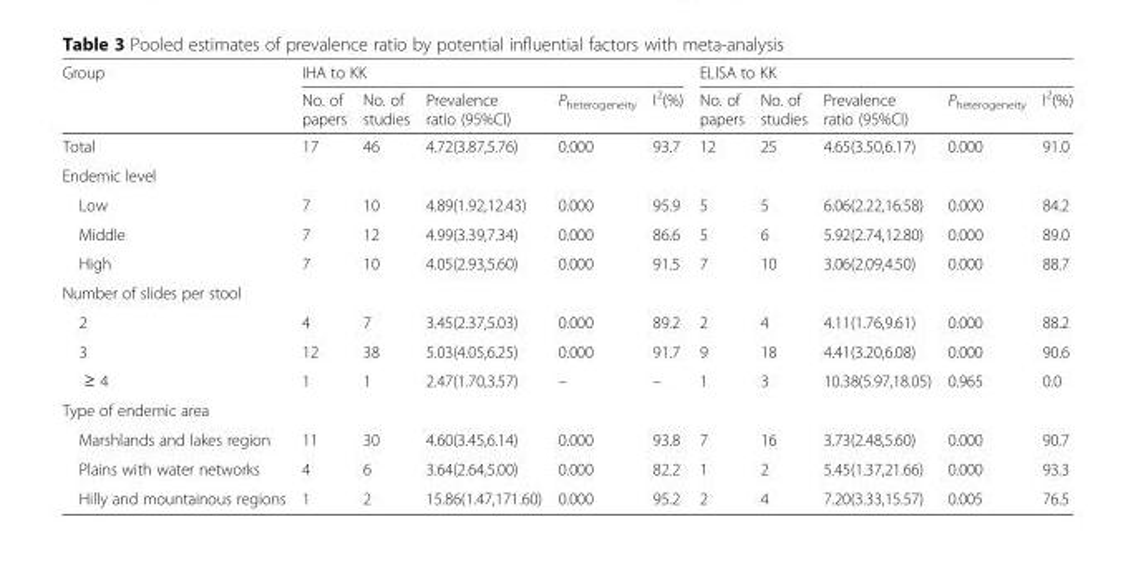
<table><thead><tr><td rowspan="2">Group</td><td colspan="5">IHA to KK</td><td colspan="5">ELISA to KK</td></tr><tr><td>No. of papers</td><td>No. of studies</td><td>Prevalence ratio (95%CI)</td><td>P<sub>heterogeneity</sub></td><td>I<sup>2</sup>(%)</td><td>No. of papers</td><td>No. of studies</td><td>Prevalence ratio (95%CI)</td><td>P<sub>heterogeneity</sub></td><td>I<sup>2</sup>(%)</td></tr></thead><tbody><tr><td>Total</td><td>17</td><td>46</td><td>4.72(3.87,5.76)</td><td>0.000</td><td>93.7</td><td>12</td><td>25</td><td>4.65(3.50,6.17)</td><td>0.000</td><td>91.0</td></tr><tr><td colspan="11">Endemic level</td></tr><tr><td>Low</td><td>7</td><td>10</td><td>4.89(1.92,12.43)</td><td>0.000</td><td>95.9</td><td>5</td><td>5</td><td>6.06(2.22,16.58)</td><td>0.000</td><td>84.2</td></tr><tr><td>Middle</td><td>7</td><td>12</td><td>4.99(3.39,7.34)</td><td>0.000</td><td>86.6</td><td>5</td><td>6</td><td>5.92(2.74,12.80)</td><td>0.000</td><td>89.0</td></tr><tr><td>High</td><td>7</td><td>10</td><td>4.05(2.93,5.60)</td><td>0.000</td><td>91.5</td><td>7</td><td>10</td><td>3.06(2.09,4.50)</td><td>0.000</td><td>88.7</td></tr><tr><td colspan="11">Number of slides per stool</td></tr><tr><td>2</td><td>4</td><td>7</td><td>3.45(2.37,5.03)</td><td>0.000</td><td>89.2</td><td>2</td><td>4</td><td>4.11(1.76,9.61)</td><td>0.000</td><td>88.2</td></tr><tr><td>3</td><td>12</td><td>38</td><td>5.03(4.05,6.25)</td><td>0.000</td><td>91.7</td><td>9</td><td>18</td><td>4.41(3.20,6.08)</td><td>0.000</td><td>90.6</td></tr><tr><td>≥ 4</td><td>1</td><td>1</td><td>2.47(1.70,3.57)</td><td>–</td><td>–</td><td>1</td><td>3</td><td>10.38(5.97,18.05)</td><td>0.965</td><td>0.0</td></tr><tr><td colspan="11">Type of endemic area</td></tr><tr><td>Marshlands and lakes region</td><td>11</td><td>30</td><td>4.60(3.45,6.14)</td><td>0.000</td><td>93.8</td><td>7</td><td>16</td><td>3.73(2.48,5.60)</td><td>0.000</td><td>90.7</td></tr><tr><td>Plains with water networks</td><td>4</td><td>6</td><td>3.64(2.64,5.00)</td><td>0.000</td><td>82.2</td><td>1</td><td>2</td><td>5.45(1.37,21.66)</td><td>0.000</td><td>93.3</td></tr><tr><td>Hilly and mountainous regions</td><td>1</td><td>2</td><td>15.86(1.47,171.60)</td><td>0.000</td><td>95.2</td><td>2</td><td>4</td><td>7.20(3.33,15.57)</td><td>0.005</td><td>76.5</td></tr></tbody></table>